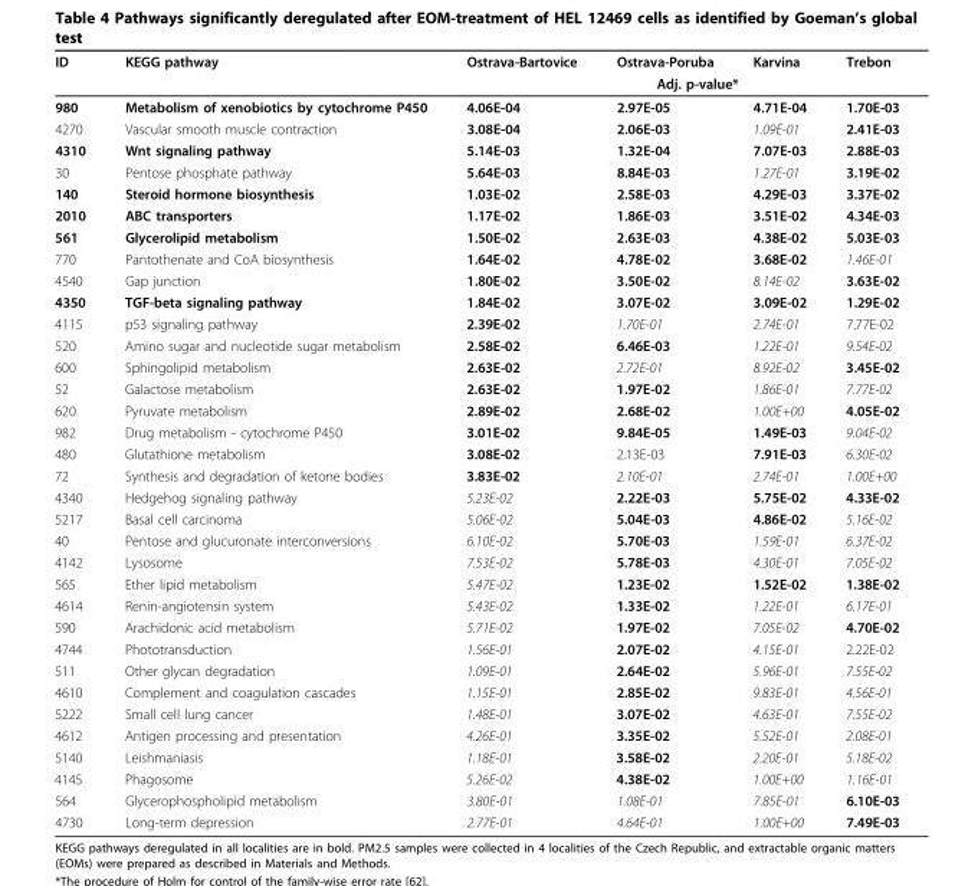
<table><thead><tr><td rowspan="2">ID</td><td rowspan="2">KEGG pathway</td><td>Ostrava-Bartovice</td><td>Ostrava-Poruba</td><td>Karvina</td><td>Trebon</td></tr><tr><td colspan="4">Adj. p-value*</td></tr></thead><tbody><tr><td>980</td><td>Metabolism of xenobiotics by cytochrome P450</td><td>4.06E-04</td><td>2.97E-05</td><td>4.71E-04</td><td>1.70E-03</td></tr><tr><td>4270</td><td>Vascular smooth muscle contraction</td><td>3.08E-04</td><td>2.06E-03</td><td>1.09E-01</td><td>2.41E-03</td></tr><tr><td>4310</td><td>Wnt signaling pathway</td><td>5.14E-03</td><td>1.32E-04</td><td>7.07E-03</td><td>2.88E-03</td></tr><tr><td>30</td><td>Pentose phosphate pathway</td><td>5.64E-03</td><td>8.84E-03</td><td>1.27E-01</td><td>3.19E-02</td></tr><tr><td>140</td><td>Steroid hormone biosynthesis</td><td>1.03E-02</td><td>2.58E-03</td><td>4.29E-03</td><td>3.37E-02</td></tr><tr><td>2010</td><td>ABC transporters</td><td>1.17E-02</td><td>1.86E-03</td><td>3.51E-02</td><td>4.34E-03</td></tr><tr><td>561</td><td>Glycerolipid metabolism</td><td>1.50E-02</td><td>2.63E-03</td><td>4.38E-02</td><td>5.03E-03</td></tr><tr><td>770</td><td>Pantothenate and CoA biosynthesis</td><td>1.64E-02</td><td>4.78E-02</td><td>3.68E-02</td><td>1.46E-01</td></tr><tr><td>4540</td><td>Gap junction</td><td>1.80E-02</td><td>3.50E-02</td><td>8.14E-02</td><td>3.63E-02</td></tr><tr><td>4350</td><td>TGF-beta signaling pathway</td><td>1.84E-02</td><td>3.07E-02</td><td>3.09E-02</td><td>1.29E-02</td></tr><tr><td>4115</td><td>p53 signaling pathway</td><td>2.39E-02</td><td>1.70E-01</td><td>2.74E-01</td><td>7.77E-02</td></tr><tr><td>520</td><td>Amino sugar and nucleotide sugar metabolism</td><td>2.58E-02</td><td>6.46E-03</td><td>1.22E-01</td><td>9.54E-02</td></tr><tr><td>600</td><td>Sphingolipid metabolism</td><td>2.63E-02</td><td>2.72E-01</td><td>8.92E-02</td><td>3.45E-02</td></tr><tr><td>52</td><td>Galactose metabolism</td><td>2.63E-02</td><td>1.97E-02</td><td>1.86E-01</td><td>7.77E-02</td></tr><tr><td>620</td><td>Pyruvate metabolism</td><td>2.89E-02</td><td>2.68E-02</td><td>1.00E+00</td><td>4.05E-02</td></tr><tr><td>982</td><td>Drug metabolism - cytochrome P450</td><td>3.01E-02</td><td>9.84E-05</td><td>1.49E-03</td><td>9.04E-02</td></tr><tr><td>480</td><td>Glutathione metabolism</td><td>3.08E-02</td><td>2.13E-03</td><td>7.91E-03</td><td>6.30E-02</td></tr><tr><td>72</td><td>Synthesis and degradation of ketone bodies</td><td>3.83E-02</td><td>2.10E-01</td><td>2.74E-01</td><td>1.00E+00</td></tr><tr><td>4340</td><td>Hedgehog signaling pathway</td><td>5.23E-02</td><td>2.22E-03</td><td>5.75E-02</td><td>4.33E-02</td></tr><tr><td>5217</td><td>Basal cell carcinoma</td><td>5.06E-02</td><td>5.04E-03</td><td>4.86E-02</td><td>5.16E-02</td></tr><tr><td>40</td><td>Pentose and glucuronate interconversions</td><td>6.10E-02</td><td>5.70E-03</td><td>1.59E-01</td><td>6.37E-02</td></tr><tr><td>4142</td><td>Lysosome</td><td>7.53E-02</td><td>5.78E-03</td><td>4.30E-01</td><td>7.05E-02</td></tr><tr><td>565</td><td>Ether lipid metabolism</td><td>5.47E-02</td><td>1.23E-02</td><td>1.52E-02</td><td>1.38E-02</td></tr><tr><td>4614</td><td>Renin-angiotensin system</td><td>5.43E-02</td><td>1.33E-02</td><td>1.22E-01</td><td>6.17E-01</td></tr><tr><td>590</td><td>Arachidonic acid metabolism</td><td>5.71E-02</td><td>1.97E-02</td><td>7.05E-02</td><td>4.70E-02</td></tr><tr><td>4744</td><td>Phototransduction</td><td>1.56E-01</td><td>2.07E-02</td><td>4.15E-01</td><td>2.22E-02</td></tr><tr><td>511</td><td>Other glycan degradation</td><td>1.09E-01</td><td>2.64E-02</td><td>5.96E-01</td><td>7.55E-02</td></tr><tr><td>4610</td><td>Complement and coagulation cascades</td><td>1.15E-01</td><td>2.85E-02</td><td>9.83E-01</td><td>4.56E-01</td></tr><tr><td>5222</td><td>Small cell lung cancer</td><td>1.48E-01</td><td>3.07E-02</td><td>4.63E-01</td><td>7.55E-02</td></tr><tr><td>4612</td><td>Antigen processing and presentation</td><td>4.26E-01</td><td>3.35E-02</td><td>5.52E-01</td><td>2.08E-01</td></tr><tr><td>5140</td><td>Leishmaniasis</td><td>1.18E-01</td><td>3.58E-02</td><td>2.20E-01</td><td>5.18E-02</td></tr><tr><td>4145</td><td>Phagosome</td><td>5.26E-02</td><td>4.38E-02</td><td>1.00E+00</td><td>1.16E-01</td></tr><tr><td>564</td><td>Glycerophospholipid metabolism</td><td>3.80E-01</td><td>1.08E-01</td><td>7.85E-01</td><td>6.10E-03</td></tr><tr><td>4730</td><td>Long-term depression</td><td>2.77E-01</td><td>4.64E-01</td><td>1.00E+00</td><td>7.49E-03</td></tr></tbody></table>